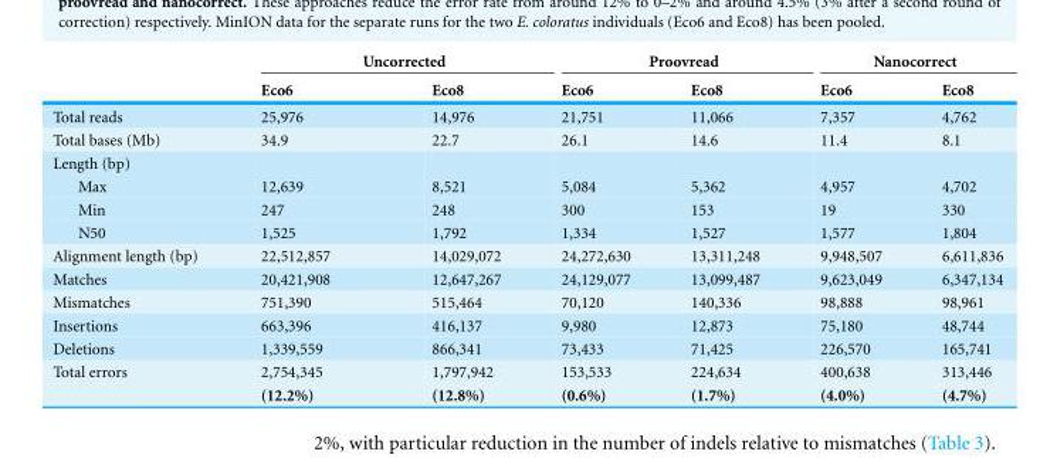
<table><thead><tr><td rowspan="2"></td><td colspan="2">Uncorrected</td><td colspan="2">Proovread</td><td colspan="2">Nanocorrect</td></tr><tr><td>Eco6</td><td>Eco8</td><td>Eco6</td><td>Eco8</td><td>Eco6</td><td>Eco8</td></tr></thead><tbody><tr><td>Total reads</td><td>25,976</td><td>14,976</td><td>21,751</td><td>11,066</td><td>7,357</td><td>4,762</td></tr><tr><td>Total bases (Mb)</td><td>34.9</td><td>22.7</td><td>26.1</td><td>14.6</td><td>11.4</td><td>8.1</td></tr><tr><td colspan="7">Length (bp)</td></tr><tr><td>Max</td><td>12,639</td><td>8,521</td><td>5,084</td><td>5,362</td><td>4,957</td><td>4,702</td></tr><tr><td>Min</td><td>247</td><td>248</td><td>300</td><td>153</td><td>19</td><td>330</td></tr><tr><td>N50</td><td>1,525</td><td>1,792</td><td>1,334</td><td>1,527</td><td>1,577</td><td>1,804</td></tr><tr><td>Alignment length (bp)</td><td>22,512,857</td><td>14,029,072</td><td>24,272,630</td><td>13,311,248</td><td>9,948,507</td><td>6,611,836</td></tr><tr><td>Matches</td><td>20,421,908</td><td>12,647,267</td><td>24,129,077</td><td>13,099,487</td><td>9,623,049</td><td>6,347,134</td></tr><tr><td>Mismatches</td><td>751,390</td><td>515,464</td><td>70,120</td><td>140,336</td><td>98,888</td><td>98,961</td></tr><tr><td>Insertions</td><td>663,396</td><td>416,137</td><td>9,980</td><td>12,873</td><td>75,180</td><td>48,744</td></tr><tr><td>Deletions</td><td>1,339,559</td><td>866,341</td><td>73,433</td><td>71,425</td><td>226,570</td><td>165,741</td></tr><tr><td rowspan="2">Total errors</td><td>2,754,345</td><td>1,797,942</td><td>153,533</td><td>224,634</td><td>400,638</td><td>313,446</td></tr><tr><td>(12.2%)</td><td>(12.8%)</td><td>(0.6%)</td><td>(1.7%)</td><td>(4.0%)</td><td>(4.7%)</td></tr></tbody></table>